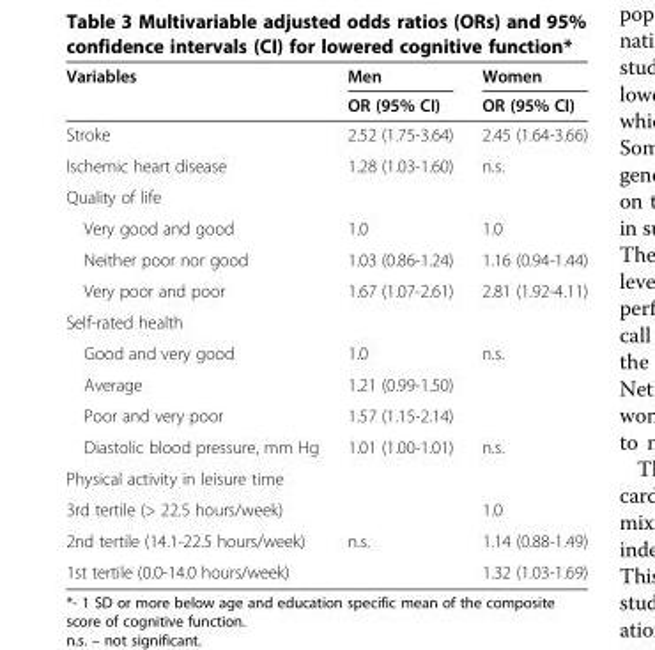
<table><thead><tr><td rowspan="2">Variables</td><td rowspan="2">Men OR (95% CI)</td><td rowspan="2">Women OR (95% CI)</td></tr><tr></tr></thead><tbody><tr><td>Stroke</td><td>2.52 (1.75-3.64)</td><td>2.45 (1.64-3.66)</td></tr><tr><td>Ischemic heart disease</td><td>1.28 (1.03-1.60)</td><td>n.s.</td></tr><tr><td colspan="3">Quality of life</td></tr><tr><td>Very good and good</td><td>1.0</td><td>1.0</td></tr><tr><td>Neither poor nor good</td><td>1.03 (0.86-1.24)</td><td>1.16 (0.94-1.44)</td></tr><tr><td>Very poor and poor</td><td>1.67 (1.07-2.61)</td><td>2.81 (1.92-4.11)</td></tr><tr><td colspan="3">Self-rated health</td></tr><tr><td>Good and very good</td><td>1.0</td><td>n.s.</td></tr><tr><td>Average</td><td>1.21 (0.99-1.50)</td><td></td></tr><tr><td>Poor and very poor</td><td>1.57 (1.15-2.14)</td><td></td></tr><tr><td>Diastolic blood pressure, mm Hg</td><td>1.01 (1.00-1.01)</td><td>n.s.</td></tr><tr><td colspan="3">Physical activity in leisure time</td></tr><tr><td>3rd tertile (&gt; 22.5 hours/week)</td><td></td><td>1.0</td></tr><tr><td>2nd tertile (14.1-22.5 hours/week)</td><td>n.s.</td><td>1.14 (0.88-1.49)</td></tr><tr><td>1st tertile (0.0-14.0 hours/week)</td><td></td><td>1.32 (1.03-1.69)</td></tr></tbody></table>